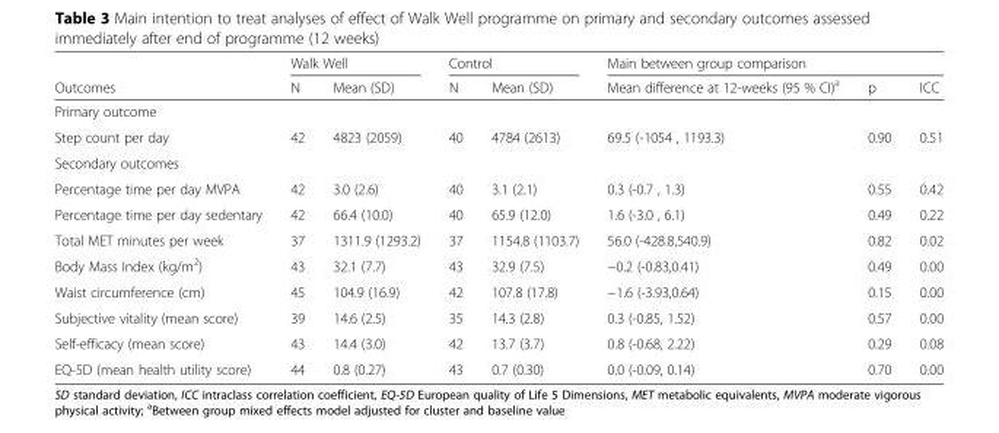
<table><thead><tr><td rowspan="2">Outcomes</td><td colspan="2">Walk Well</td><td colspan="2">Control</td><td colspan="3">Main between group comparison</td></tr><tr><td>N</td><td>Mean (SD)</td><td>N</td><td>Mean (SD)</td><td>Mean difference at 12-weeks (95 % CI)<sup>a</sup></td><td>p</td><td>ICC</td></tr></thead><tbody><tr><td colspan="8">Primary outcome</td></tr><tr><td>Step count per day</td><td>42</td><td>4823 (2059)</td><td>40</td><td>4784 (2613)</td><td>69.5 (-1054 , 1193.3)</td><td>0.90</td><td>0.51</td></tr><tr><td colspan="8">Secondary outcomes</td></tr><tr><td>Percentage time per day MVPA</td><td>42</td><td>3.0 (2.6)</td><td>40</td><td>3.1 (2.1)</td><td>0.3 (-0.7 , 1.3)</td><td>0.55</td><td>0.42</td></tr><tr><td>Percentage time per day sedentary</td><td>42</td><td>66.4 (10.0)</td><td>40</td><td>65.9 (12.0)</td><td>1.6 (-3.0 , 6.1)</td><td>0.49</td><td>0.22</td></tr><tr><td>Total MET minutes per week</td><td>37</td><td>1311.9 (1293.2)</td><td>37</td><td>1154.8 (1103.7)</td><td>56.0 (-428.8,540.9)</td><td>0.82</td><td>0.02</td></tr><tr><td>Body Mass Index (kg/m<sup>2</sup>)</td><td>43</td><td>32.1 (7.7)</td><td>43</td><td>32.9 (7.5)</td><td>−0.2 (-0.83,0.41)</td><td>0.49</td><td>0.00</td></tr><tr><td>Waist circumference (cm)</td><td>45</td><td>104.9 (16.9)</td><td>42</td><td>107.8 (17.8)</td><td>−1.6 (-3.93,0.64)</td><td>0.15</td><td>0.00</td></tr><tr><td>Subjective vitality (mean score)</td><td>39</td><td>14.6 (2.5)</td><td>35</td><td>14.3 (2.8)</td><td>0.3 (-0.85, 1.52)</td><td>0.57</td><td>0.00</td></tr><tr><td>Self-efficacy (mean score)</td><td>43</td><td>14.4 (3.0)</td><td>42</td><td>13.7 (3.7)</td><td>0.8 (-0.68, 2.22)</td><td>0.29</td><td>0.08</td></tr><tr><td>EQ-5D (mean health utility score)</td><td>44</td><td>0.8 (0.27)</td><td>43</td><td>0.7 (0.30)</td><td>0.0 (-0.09, 0.14)</td><td>0.70</td><td>0.00</td></tr></tbody></table>